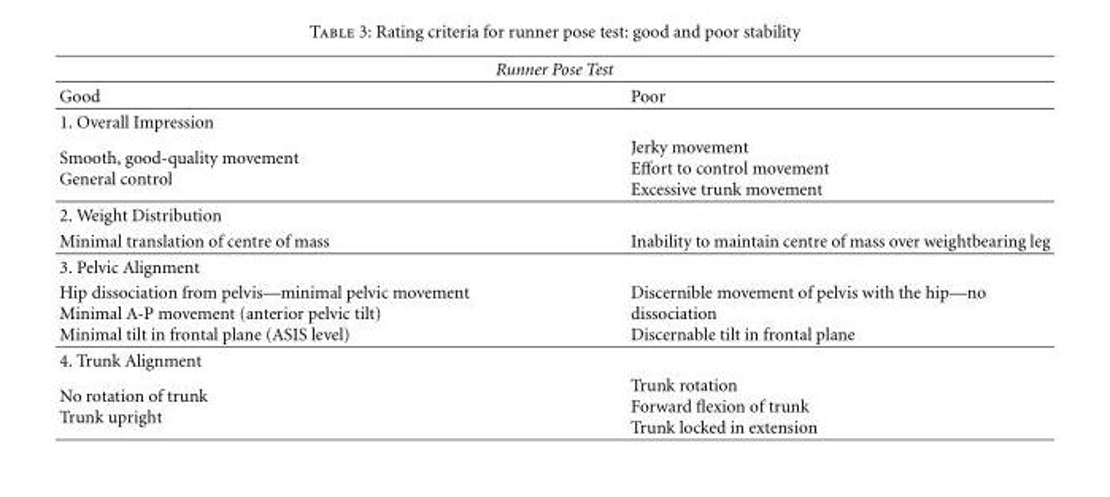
<table><thead><tr><td colspan="2">Runner Pose Test</td></tr><tr><td>Good</td><td>Poor</td></tr></thead><tbody><tr><td colspan="2">1. Overall Impression</td></tr><tr><td>Smooth, good-quality movement General control</td><td>Jerky movement Effort to control movement Excessive trunk movement</td></tr><tr><td colspan="2">2. Weight Distribution</td></tr><tr><td>Minimal translation of centre of mass</td><td>Inability to maintain centre of mass over weightbearing leg</td></tr><tr><td colspan="2">3. Pelvic Alignment</td></tr><tr><td>Hip dissociation from pelvis—minimal pelvic movement Minimal A-P movement (anterior pelvic tilt) Minimal tilt in frontal plane (ASIS level)</td><td>Discernible movement of pelvis with the hip—no dissociation Discernable tilt in frontal plane</td></tr><tr><td colspan="2">4. Trunk Alignment</td></tr><tr><td>No rotation of trunk Trunk upright</td><td>Trunk rotation Forward flexion of trunk Trunk locked in extension</td></tr></tbody></table>